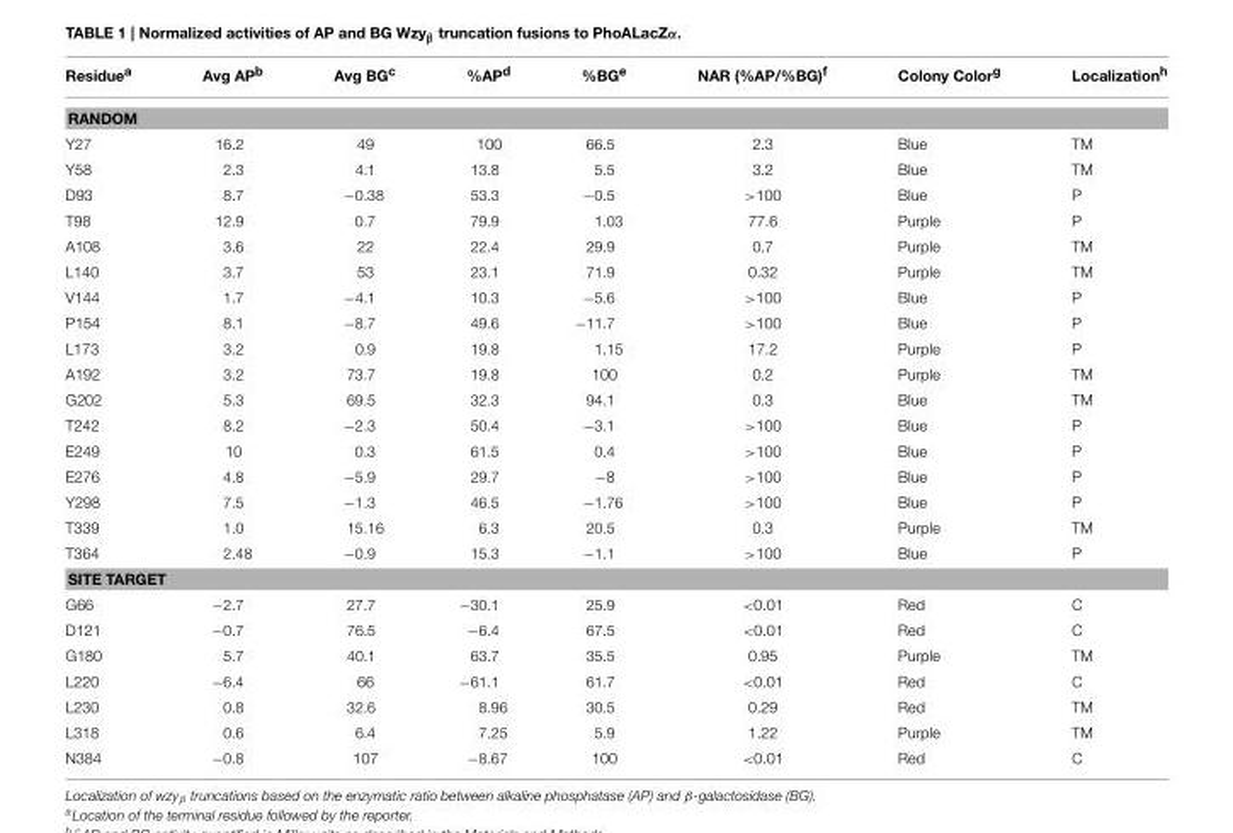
<table><thead><tr><td>Residue<sup>a</sup></td><td>Avg AP<sup>b</sup></td><td>Avg BG<sup>c</sup></td><td>%AP<sup>d</sup></td><td>%BG<sup>e</sup></td><td>NAR (%AP/%BG)<sup>f</sup></td><td>Colony Color<sup>g</sup></td><td>Localization<sup>h</sup></td></tr></thead><tbody><tr><td colspan="8">RANDOM</td></tr><tr><td>Y27</td><td>16.2</td><td>49</td><td>100</td><td>66.5</td><td>2.3</td><td>Blue</td><td>TM</td></tr><tr><td>Y58</td><td>2.3</td><td>4.1</td><td>13.8</td><td>5.5</td><td>3.2</td><td>Blue</td><td>TM</td></tr><tr><td>D93</td><td>8.7</td><td>−0.38</td><td>53.3</td><td>−0.5</td><td>&gt;100</td><td>Blue</td><td>P</td></tr><tr><td>T98</td><td>12.9</td><td>0.7</td><td>79.9</td><td>1.03</td><td>77.6</td><td>Purple</td><td>P</td></tr><tr><td>A108</td><td>3.6</td><td>22</td><td>22.4</td><td>29.9</td><td>0.7</td><td>Purple</td><td>TM</td></tr><tr><td>L140</td><td>3.7</td><td>53</td><td>23.1</td><td>71.9</td><td>0.32</td><td>Purple</td><td>TM</td></tr><tr><td>V144</td><td>1.7</td><td>−4.1</td><td>10.3</td><td>−5.6</td><td>&gt;100</td><td>Blue</td><td>P</td></tr><tr><td>P154</td><td>8.1</td><td>−8.7</td><td>49.6</td><td>−11.7</td><td>&gt;100</td><td>Blue</td><td>P</td></tr><tr><td>L173</td><td>3.2</td><td>0.9</td><td>19.8</td><td>1.15</td><td>17.2</td><td>Purple</td><td>P</td></tr><tr><td>A192</td><td>3.2</td><td>73.7</td><td>19.8</td><td>100</td><td>0.2</td><td>Purple</td><td>TM</td></tr><tr><td>G202</td><td>5.3</td><td>69.5</td><td>32.3</td><td>94.1</td><td>0.3</td><td>Blue</td><td>TM</td></tr><tr><td>T242</td><td>8.2</td><td>−2.3</td><td>50.4</td><td>−3.1</td><td>&gt;100</td><td>Blue</td><td>P</td></tr><tr><td>E249</td><td>10</td><td>0.3</td><td>61.5</td><td>0.4</td><td>&gt;100</td><td>Blue</td><td>P</td></tr><tr><td>E276</td><td>4.8</td><td>−5.9</td><td>29.7</td><td>−8</td><td>&gt;100</td><td>Blue</td><td>P</td></tr><tr><td>Y298</td><td>7.5</td><td>−1.3</td><td>46.5</td><td>−1.76</td><td>&gt;100</td><td>Blue</td><td>P</td></tr><tr><td>T339</td><td>1.0</td><td>15.16</td><td>6.3</td><td>20.5</td><td>0.3</td><td>Purple</td><td>TM</td></tr><tr><td>T364</td><td>2.48</td><td>−0.9</td><td>15.3</td><td>−1.1</td><td>&gt;100</td><td>Blue</td><td>P</td></tr><tr><td colspan="8">SITE TARGET</td></tr><tr><td>G66</td><td>−2.7</td><td>27.7</td><td>−30.1</td><td>25.9</td><td>&lt;0.01</td><td>Red</td><td>C</td></tr><tr><td>D121</td><td>−0.7</td><td>76.5</td><td>−6.4</td><td>67.5</td><td>&lt;0.01</td><td>Red</td><td>C</td></tr><tr><td>G180</td><td>5.7</td><td>40.1</td><td>63.7</td><td>35.5</td><td>0.95</td><td>Purple</td><td>TM</td></tr><tr><td>L220</td><td>−6.4</td><td>66</td><td>−61.1</td><td>61.7</td><td>&lt;0.01</td><td>Red</td><td>C</td></tr><tr><td>L230</td><td>0.8</td><td>32.6</td><td>8.96</td><td>30.5</td><td>0.29</td><td>Red</td><td>TM</td></tr><tr><td>L318</td><td>0.6</td><td>6.4</td><td>7.25</td><td>5.9</td><td>1.22</td><td>Purple</td><td>TM</td></tr><tr><td>N384</td><td>−0.8</td><td>107</td><td>−8.67</td><td>100</td><td>&lt;0.01</td><td>Red</td><td>C</td></tr></tbody></table>